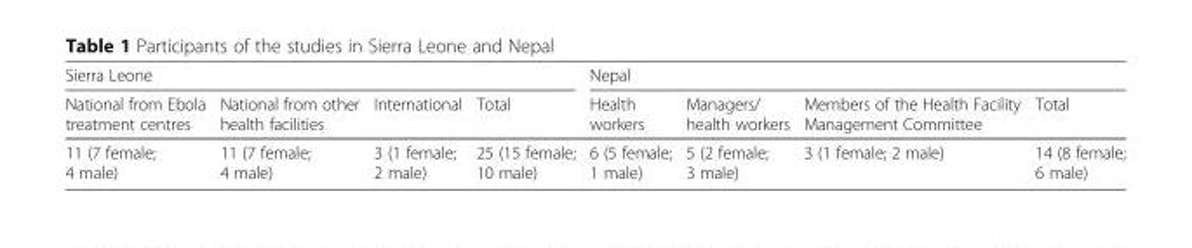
<table><thead><tr><td colspan="4">Sierra Leone</td><td colspan="4">Nepal</td></tr><tr><td>National from Ebola treatment centres</td><td>National from other health facilities</td><td>International</td><td>Total</td><td>Health workers</td><td>Managers/ health workers</td><td>Members of the Health Facility Management Committee</td><td>Total</td></tr></thead><tbody><tr><td>11 (7 female; 4 male)</td><td>11 (7 female; 4 male)</td><td>3 (1 female; 2 male)</td><td>25 (15 female; 10 male)</td><td>6 (5 female; 1 male)</td><td>5 (2 female; 3 male)</td><td>3 (1 female; 2 male)</td><td>14 (8 female; 6 male)</td></tr></tbody></table>